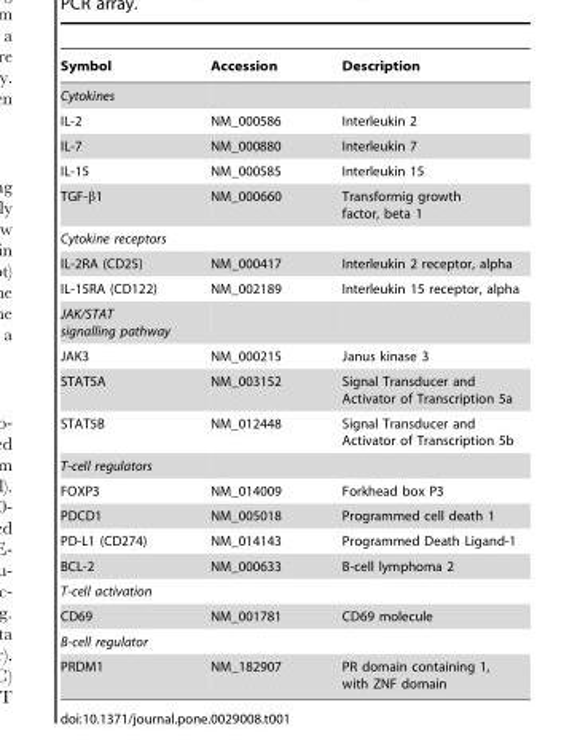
<table><thead><tr><td>Symbol</td><td>Accession</td><td>Description</td></tr></thead><tbody><tr><td colspan="3">Cytokines</td></tr><tr><td>IL-2</td><td>NM_000586</td><td>Interleukin 2</td></tr><tr><td>IL-7</td><td>NM_000880</td><td>Interleukin 7</td></tr><tr><td>IL-15</td><td>NM_000585</td><td>Interleukin 15</td></tr><tr><td>TGF-β1</td><td>NM_000660</td><td>Transformig growth factor, beta 1</td></tr><tr><td colspan="3">Cytokine receptors</td></tr><tr><td>IL-2RA (CD25)</td><td>NM_000417</td><td>Interleukin 2 receptor, alpha</td></tr><tr><td>IL-15RA (CD122)</td><td>NM_002189</td><td>Interleukin 15 receptor, alpha</td></tr><tr><td colspan="3">JAK/STAT signalling pathway</td></tr><tr><td>JAK3</td><td>NM_000215</td><td>Janus kinase 3</td></tr><tr><td>STAT5A</td><td>NM_003152</td><td>Signal Transducer and Activator of Transcription 5a</td></tr><tr><td>STAT5B</td><td>NM_012448</td><td>Signal Transducer and Activator of Transcription 5b</td></tr><tr><td colspan="3">T-cell regulators</td></tr><tr><td>FOXP3</td><td>NM_014009</td><td>Forkhead box P3</td></tr><tr><td>PDCD1</td><td>NM_005018</td><td>Programmed cell death 1</td></tr><tr><td>PD-L1 (CD274)</td><td>NM_014143</td><td>Programmed Death Ligand-1</td></tr><tr><td>BCL-2</td><td>NM_000633</td><td>B-cell lymphoma 2</td></tr><tr><td colspan="3">T-cell activation</td></tr><tr><td>CD69</td><td>NM_001781</td><td>CD69 molecule</td></tr><tr><td colspan="3">B-cell regulator</td></tr><tr><td>PRDM1</td><td>NM_182907</td><td>PR domain containing 1, with ZNF domain</td></tr></tbody></table>